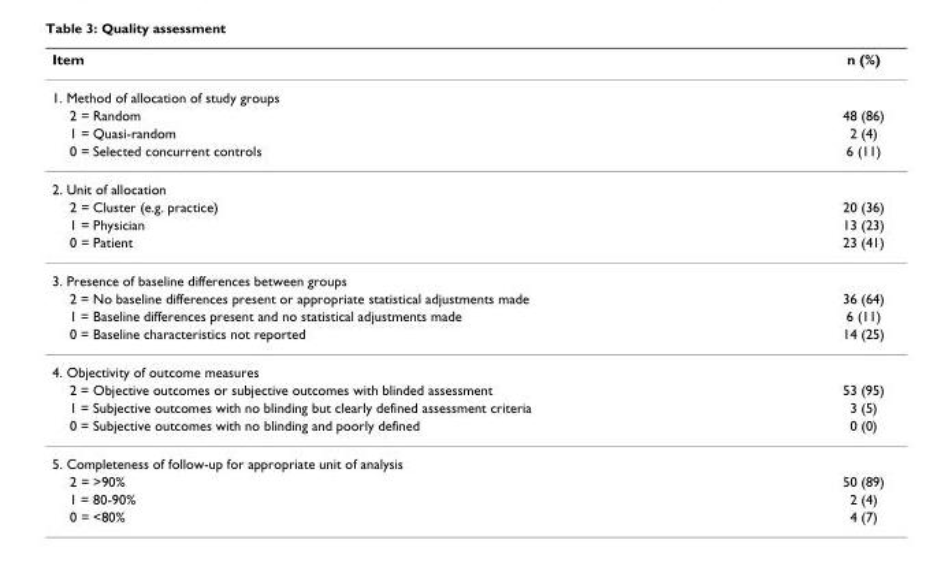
<table><thead><tr><td>Item</td><td>n (%)</td></tr></thead><tbody><tr><td colspan="2">1. Method of allocation of study groups</td></tr><tr><td>2 = Random</td><td>48 (86)</td></tr><tr><td>1 = Quasi-random</td><td>2 (4)</td></tr><tr><td>0 = Selected concurrent controls</td><td>6 (11)</td></tr><tr><td colspan="2">2. Unit of allocation</td></tr><tr><td>2 = Cluster (e.g. practice)</td><td>20 (36)</td></tr><tr><td>1 = Physician</td><td>13 (23)</td></tr><tr><td>0 = Patient</td><td>23 (41)</td></tr><tr><td colspan="2">3. Presence of baseline differences between groups</td></tr><tr><td>2 = No baseline differences present or appropriate statistical adjustments made</td><td>36 (64)</td></tr><tr><td>1 = Baseline differences present and no statistical adjustments made</td><td>6 (11)</td></tr><tr><td>0 = Baseline characteristics not reported</td><td>14 (25)</td></tr><tr><td colspan="2">4. Objectivity of outcome measures</td></tr><tr><td>2 = Objective outcomes or subjective outcomes with blinded assessment</td><td>53 (95)</td></tr><tr><td>1 = Subjective outcomes with no blinding but clearly defined assessment criteria</td><td>3 (5)</td></tr><tr><td>0 = Subjective outcomes with no blinding and poorly defined</td><td>0 (0)</td></tr><tr><td colspan="2">5. Completeness of follow-up for appropriate unit of analysis</td></tr><tr><td>2 = &gt;90%</td><td>50 (89)</td></tr><tr><td>1 = 80-90%</td><td>2 (4)</td></tr><tr><td>0 = &lt;80%</td><td>4 (7)</td></tr></tbody></table>